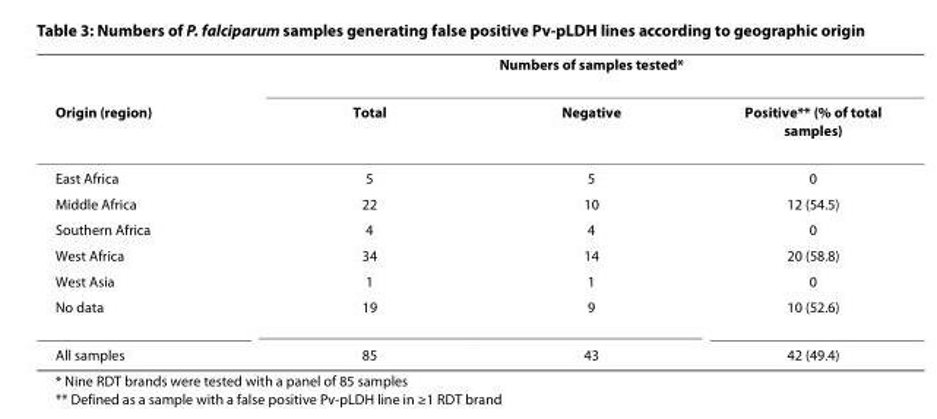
<table><thead><tr><td rowspan="2">Origin (region)</td><td colspan="3">Numbers of samples tested*</td></tr><tr><td>Total</td><td>Negative</td><td>Positive** (% of total samples)</td></tr></thead><tbody><tr><td>East Africa</td><td>5</td><td>5</td><td>0</td></tr><tr><td>Middle Africa</td><td>22</td><td>10</td><td>12 (54.5)</td></tr><tr><td>Southern Africa</td><td>4</td><td>4</td><td>0</td></tr><tr><td>West Africa</td><td>34</td><td>14</td><td>20 (58.8)</td></tr><tr><td>West Asia</td><td>1</td><td>1</td><td>0</td></tr><tr><td>No data</td><td>19</td><td>9</td><td>10 (52.6)</td></tr><tr><td>All samples</td><td>85</td><td>43</td><td>42 (49.4)</td></tr></tbody></table>